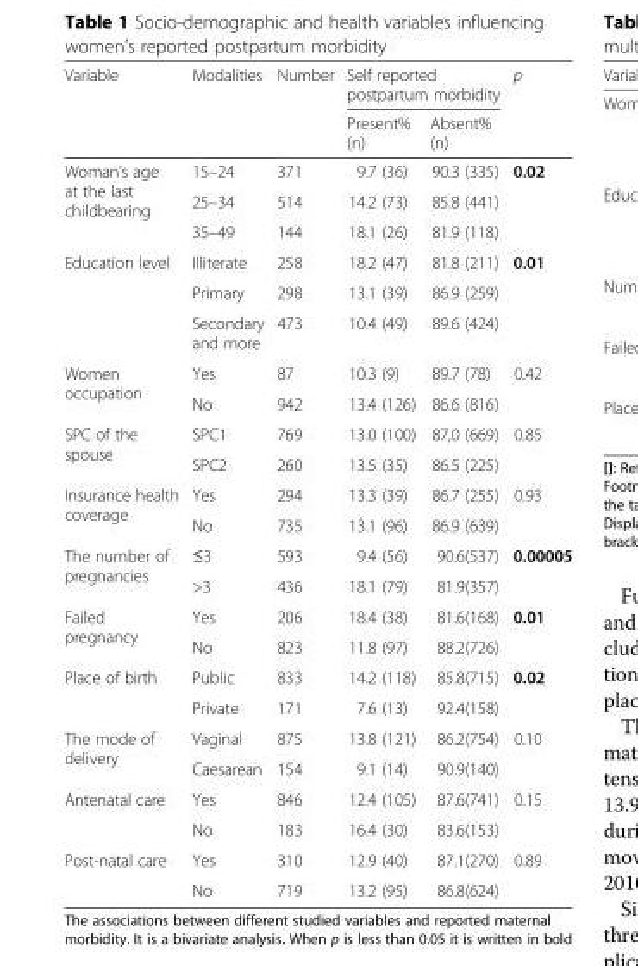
<table><thead><tr><td rowspan="2">Variable</td><td rowspan="2">Modalities</td><td rowspan="2">Number</td><td colspan="2">Self reported postpartum morbidity</td><td rowspan="2">p</td></tr><tr><td>Present% (n)</td><td>Absent% (n)</td></tr></thead><tbody><tr><td rowspan="3">Woman’s age at the last childbearing</td><td>15–24</td><td>371</td><td>9.7 (36)</td><td>90.3 (335)</td><td rowspan="3">0.02</td></tr><tr><td>25–34</td><td>514</td><td>14.2 (73)</td><td>85.8 (441)</td></tr><tr><td>35–49</td><td>144</td><td>18.1 (26)</td><td>81.9 (118)</td></tr><tr><td rowspan="3">Education level</td><td>Illiterate</td><td>258</td><td>18.2 (47)</td><td>81.8 (211)</td><td rowspan="3">0.01</td></tr><tr><td>Primary</td><td>298</td><td>13.1 (39)</td><td>86.9 (259)</td></tr><tr><td>Secondary and more</td><td>473</td><td>10.4 (49)</td><td>89.6 (424)</td></tr><tr><td rowspan="2">Women occupation</td><td>Yes</td><td>87</td><td>10.3 (9)</td><td>89.7 (78)</td><td rowspan="2">0.42</td></tr><tr><td>No</td><td>942</td><td>13.4 (126)</td><td>86.6 (816)</td></tr><tr><td rowspan="2">SPC of the spouse</td><td>SPC1</td><td>769</td><td>13.0 (100)</td><td>87,0 (669)</td><td rowspan="2">0.85</td></tr><tr><td>SPC2</td><td>260</td><td>13.5 (35)</td><td>86.5 (225)</td></tr><tr><td rowspan="2">Insurance health coverage</td><td>Yes</td><td>294</td><td>13.3 (39)</td><td>86.7 (255)</td><td rowspan="2">0.93</td></tr><tr><td>No</td><td>735</td><td>13.1 (96)</td><td>86.9 (639)</td></tr><tr><td rowspan="2">The number of pregnancies</td><td>≤3</td><td>593</td><td>9.4 (56)</td><td>90.6(537)</td><td rowspan="2">0.00005</td></tr><tr><td>&gt;3</td><td>436</td><td>18.1 (79)</td><td>81.9(357)</td></tr><tr><td rowspan="2">Failed pregnancy</td><td>Yes</td><td>206</td><td>18.4 (38)</td><td>81.6(168)</td><td rowspan="2">0.01</td></tr><tr><td>No</td><td>823</td><td>11.8 (97)</td><td>88.2(726)</td></tr><tr><td rowspan="2">Place of birth</td><td>Public</td><td>833</td><td>14.2 (118)</td><td>85.8(715)</td><td rowspan="2">0.02</td></tr><tr><td>Private</td><td>171</td><td>7.6 (13)</td><td>92.4(158)</td></tr><tr><td rowspan="2">The mode of delivery</td><td>Vaginal</td><td>875</td><td>13.8 (121)</td><td>86.2(754)</td><td rowspan="2">0.10</td></tr><tr><td>Caesarean</td><td>154</td><td>9.1 (14)</td><td>90.9(140)</td></tr><tr><td rowspan="2">Antenatal care</td><td>Yes</td><td>846</td><td>12.4 (105)</td><td>87.6(741)</td><td rowspan="2">0.15</td></tr><tr><td>No</td><td>183</td><td>16.4 (30)</td><td>83.6(153)</td></tr><tr><td rowspan="2">Post-natal care</td><td>Yes</td><td>310</td><td>12.9 (40)</td><td>87.1(270)</td><td rowspan="2">0.89</td></tr><tr><td>No</td><td>719</td><td>13.2 (95)</td><td>86.8(624)</td></tr></tbody></table>